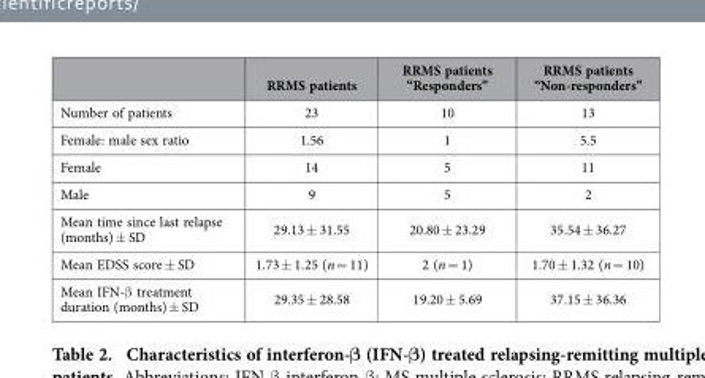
<table><thead><tr><td></td><td>RRMS patients</td><td>RRMS patients “Responders”</td><td>RRMS patients “Non-responders”</td></tr></thead><tbody><tr><td>Number of patients</td><td>23</td><td>10</td><td>13</td></tr><tr><td>Female: male sex ratio</td><td>1.56</td><td>1</td><td>5.5</td></tr><tr><td>Female</td><td>14</td><td>5</td><td>11</td></tr><tr><td>Male</td><td>9</td><td>5</td><td>2</td></tr><tr><td>Mean time since last relapse (months) ± SD</td><td>29.13 ± 31.55</td><td>20.80 ± 23.29</td><td>35.54 ± 36.27</td></tr><tr><td>Mean EDSS score ± SD</td><td>1.73 ± 1.25 (n = 11)</td><td>2 (n = 1)</td><td>1.70 ± 1.32 (n = 10)</td></tr><tr><td>Mean IFN-β treatment duration (months) ± SD</td><td>29.35 ± 28.58</td><td>19.20 ± 5.69</td><td>37.15 ± 36.36</td></tr></tbody></table>